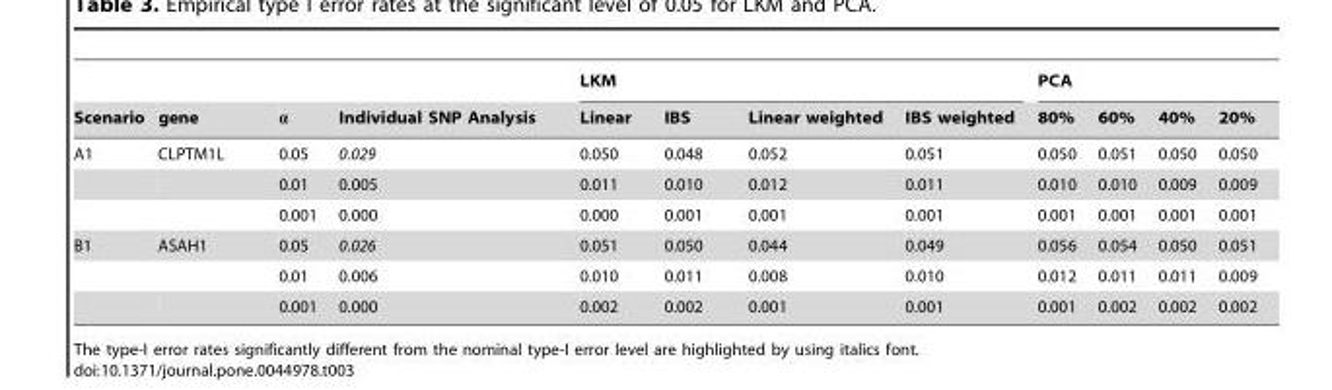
<table><thead><tr><td rowspan="2">Scenario</td><td rowspan="2">gene</td><td rowspan="2">α</td><td rowspan="2">Individual SNP Analysis</td><td colspan="4">LKM</td><td colspan="4">PCA</td></tr><tr><td>Linear</td><td>IBS</td><td>Linear weighted</td><td>IBS weighted</td><td>80%</td><td>60%</td><td>40%</td><td>20%</td></tr></thead><tbody><tr><td rowspan="3">A1</td><td>CLPTM1L</td><td>0.05</td><td>0.029</td><td>0.050</td><td>0.048</td><td>0.052</td><td>0.051</td><td>0.050</td><td>0.051</td><td>0.050</td><td>0.050</td></tr><tr><td></td><td>0.01</td><td>0.005</td><td>0.011</td><td>0.010</td><td>0.012</td><td>0.011</td><td>0.010</td><td>0.010</td><td>0.009</td><td>0.009</td></tr><tr><td></td><td>0.001</td><td>0.000</td><td>0.000</td><td>0.001</td><td>0.001</td><td>0.001</td><td>0.001</td><td>0.001</td><td>0.001</td><td>0.001</td></tr><tr><td rowspan="3">B1</td><td>ASAH1</td><td>0.05</td><td>0.026</td><td>0.051</td><td>0.050</td><td>0.044</td><td>0.049</td><td>0.056</td><td>0.054</td><td>0.050</td><td>0.051</td></tr><tr><td></td><td>0.01</td><td>0.006</td><td>0.010</td><td>0.011</td><td>0.008</td><td>0.010</td><td>0.012</td><td>0.011</td><td>0.011</td><td>0.009</td></tr><tr><td></td><td>0.001</td><td>0.000</td><td>0.002</td><td>0.002</td><td>0.001</td><td>0.001</td><td>0.001</td><td>0.002</td><td>0.002</td><td>0.002</td></tr></tbody></table>